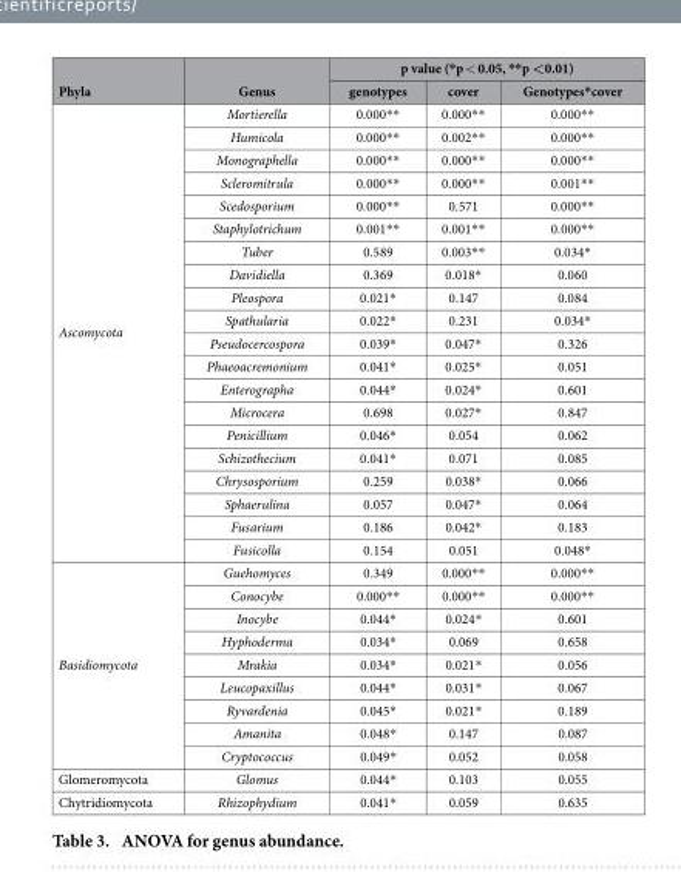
<table><thead><tr><td rowspan="2">Phyla</td><td rowspan="2">Genus</td><td colspan="3">p value (*p &lt; 0.05, **p &lt;0.01)</td></tr><tr><td>genotypes</td><td>cover</td><td>Genotypes*cover</td></tr></thead><tbody><tr><td rowspan="20">Ascomycota</td><td>Mortierella</td><td>0.000* *</td><td>0.000* *</td><td>0.000* *</td></tr><tr><td>Humicola</td><td>0.000* *</td><td>0.002* *</td><td>0.000* *</td></tr><tr><td>Monographella</td><td>0.000* *</td><td>0.000* *</td><td>0.000* *</td></tr><tr><td>Scleromitrula</td><td>0.000* *</td><td>0.000* *</td><td>0.001* *</td></tr><tr><td>Scedosporium</td><td>0.000* *</td><td>0.571</td><td>0.000* *</td></tr><tr><td>Staphylotrichum</td><td>0.001* *</td><td>0.001* *</td><td>0.000* *</td></tr><tr><td>Tuber</td><td>0.589</td><td>0.003* *</td><td>0.034*</td></tr><tr><td>Davidiella</td><td>0.369</td><td>0.018*</td><td>0.060</td></tr><tr><td>Pleospora</td><td>0.021*</td><td>0.147</td><td>0.084</td></tr><tr><td>Spathularia</td><td>0.022*</td><td>0.231</td><td>0.034*</td></tr><tr><td>Pseudocercospora</td><td>0.039*</td><td>0.047*</td><td>0.326</td></tr><tr><td>Phaeoacremonium</td><td>0.041*</td><td>0.025*</td><td>0.051</td></tr><tr><td>Enterographa</td><td>0.044*</td><td>0.024*</td><td>0.601</td></tr><tr><td>Microcera</td><td>0.698</td><td>0.027*</td><td>0.847</td></tr><tr><td>Penicillium</td><td>0.046*</td><td>0.054</td><td>0.062</td></tr><tr><td>Schizothecium</td><td>0.041*</td><td>0.071</td><td>0.085</td></tr><tr><td>Chrysosporium</td><td>0.259</td><td>0.038*</td><td>0.066</td></tr><tr><td>Sphaerulina</td><td>0.057</td><td>0.047*</td><td>0.064</td></tr><tr><td>Fusarium</td><td>0.186</td><td>0.042*</td><td>0.183</td></tr><tr><td>Fusicolla</td><td>0.154</td><td>0.051</td><td>0.048*</td></tr><tr><td rowspan="9">Basidiomycota</td><td>Guehomyces</td><td>0.349</td><td>0.000* *</td><td>0.000* *</td></tr><tr><td>Conocybe</td><td>0.000* *</td><td>0.000* *</td><td>0.000* *</td></tr><tr><td>Inocybe</td><td>0.044*</td><td>0.024*</td><td>0.601</td></tr><tr><td>Hyphoderma</td><td>0.034*</td><td>0.069</td><td>0.658</td></tr><tr><td>Mrakia</td><td>0.034*</td><td>0.021*</td><td>0.056</td></tr><tr><td>Leucopaxillus</td><td>0.044*</td><td>0.031*</td><td>0.067</td></tr><tr><td>Ryvardenia</td><td>0.045*</td><td>0.021*</td><td>0.189</td></tr><tr><td>Amanita</td><td>0.048*</td><td>0.147</td><td>0.087</td></tr><tr><td>Cryptococcus</td><td>0.049*</td><td>0.052</td><td>0.058</td></tr><tr><td>Glomeromycota</td><td>Glomus</td><td>0.044*</td><td>0.103</td><td>0.055</td></tr><tr><td>Chytridiomycota</td><td>Rhizophydium</td><td>0.041*</td><td>0.059</td><td>0.635</td></tr></tbody></table>